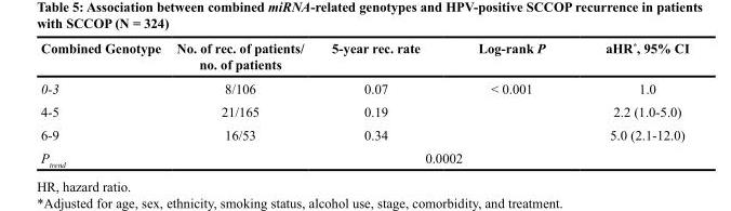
<table><thead><tr><td>Combined Genotype</td><td>No. of rec. of patients/ no. of patients</td><td>5-year rec. rate</td><td></td><td>Log-rank P</td><td>aHR*, 95% CI</td></tr></thead><tbody><tr><td>0-3</td><td>8/106</td><td>0.07</td><td></td><td>&lt; 0.001</td><td>1.0</td></tr><tr><td>4-5</td><td>21/165</td><td>0.19</td><td></td><td></td><td>2.2 (1.0-5.0)</td></tr><tr><td>6-9</td><td>16/53</td><td>0.34</td><td></td><td></td><td>5.0 (2.1-12.0)</td></tr><tr><td>P<sub>trend</sub></td><td></td><td></td><td>0.0002</td><td></td><td></td></tr></tbody></table>